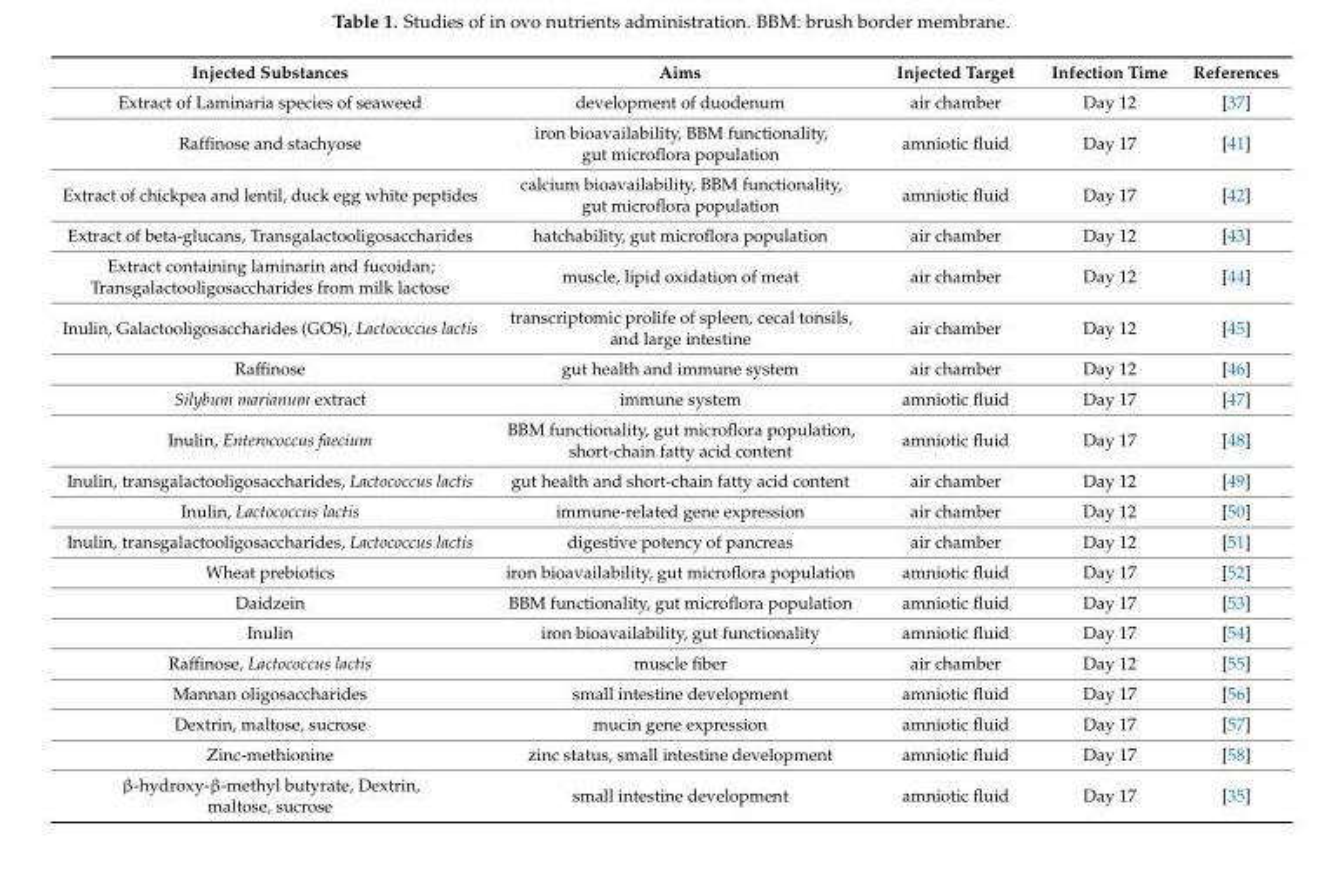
<table><thead><tr><td>Injected Substances</td><td>Aims</td><td>Injected Target</td><td>Infection Time</td><td>References</td></tr></thead><tbody><tr><td>Extract of Laminaria species of seaweed</td><td>development of duodenum</td><td>air chamber</td><td>Day 12</td><td>[37]</td></tr><tr><td>Raffinose and stachyose</td><td>iron bioavailability, BBM functionality, gut microflora population</td><td>amniotic fluid</td><td>Day 17</td><td>[41]</td></tr><tr><td>Extract of chickpea and lentil, duck egg white peptides</td><td>calcium bioavailability, BBM functionality, gut microflora population</td><td>amniotic fluid</td><td>Day 17</td><td>[42]</td></tr><tr><td>Extract of beta-glucans, Transgalactooligosaccharides</td><td>hatchability, gut microflora population</td><td>air chamber</td><td>Day 12</td><td>[43]</td></tr><tr><td>Extract containing laminarin and fucoidan; Transgalactooligosaccharides from milk lactose</td><td>muscle, lipid oxidation of meat</td><td>air chamber</td><td>Day 12</td><td>[44]</td></tr><tr><td>Inulin, Galactooligosaccharides (GOS), Lactococcus lactis</td><td>transcriptomic prolife of spleen, cecal tonsils, and large intestine</td><td>air chamber</td><td>Day 12</td><td>[45]</td></tr><tr><td>Raffinose</td><td>gut health and immune system</td><td>air chamber</td><td>Day 12</td><td>[46]</td></tr><tr><td>Silybum marianum extract</td><td>immune system</td><td>amniotic fluid</td><td>Day 17</td><td>[47]</td></tr><tr><td>Inulin, Enterococcus faecium</td><td>BBM functionality, gut microflora population, short-chain fatty acid content</td><td>amniotic fluid</td><td>Day 17</td><td>[48]</td></tr><tr><td>Inulin, transgalactooligosaccharides, Lactococcus lactis</td><td>gut health and short-chain fatty acid content</td><td>air chamber</td><td>Day 12</td><td>[49]</td></tr><tr><td>Inulin, Lactococcus lactis</td><td>immune-related gene expression</td><td>air chamber</td><td>Day 12</td><td>[50]</td></tr><tr><td>Inulin, transgalactooligosaccharides, Lactococcus lactis</td><td>digestive potency of pancreas</td><td>air chamber</td><td>Day 12</td><td>[51]</td></tr><tr><td>Wheat prebiotics</td><td>iron bioavailability, gut microflora population</td><td>amniotic fluid</td><td>Day 17</td><td>[52]</td></tr><tr><td>Daidzein</td><td>BBM functionality, gut microflora population</td><td>amniotic fluid</td><td>Day 17</td><td>[53]</td></tr><tr><td>Inulin</td><td>iron bioavailability, gut functionality</td><td>amniotic fluid</td><td>Day 17</td><td>[54]</td></tr><tr><td>Raffinose, Lactococcus lactis</td><td>muscle fiber</td><td>air chamber</td><td>Day 12</td><td>[55]</td></tr><tr><td>Mannan oligosaccharides</td><td>small intestine development</td><td>amniotic fluid</td><td>Day 17</td><td>[56]</td></tr><tr><td>Dextrin, maltose, sucrose</td><td>mucin gene expression</td><td>amniotic fluid</td><td>Day 17</td><td>[57]</td></tr><tr><td>Zinc-methionine</td><td>zinc status, small intestine development</td><td>amniotic fluid</td><td>Day 17</td><td>[58]</td></tr><tr><td>β-hydroxy-β-methyl butyrate, Dextrin, maltose, sucrose</td><td>small intestine development</td><td>amniotic fluid</td><td>Day 17</td><td>[35]</td></tr></tbody></table>